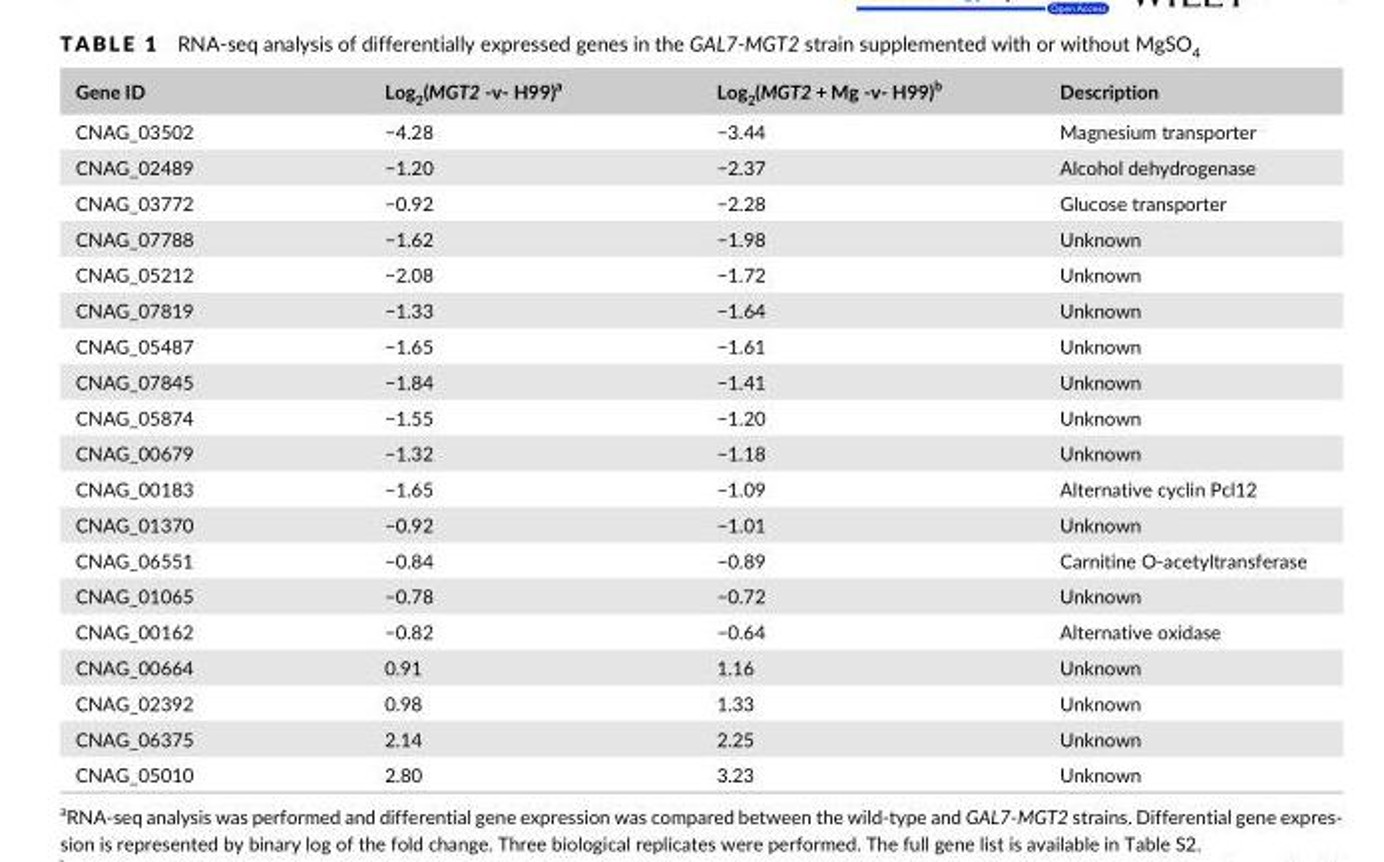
<table><thead><tr><td>Gene ID</td><td>Log<sub>2</sub>(MGT2 - v- H99)<sup>a</sup></td><td>Log<sub>2</sub>(MGT2 + Mg - v- H99)<sup>b</sup></td><td>Description</td></tr></thead><tbody><tr><td>CNAG_03502</td><td>−4.28</td><td>−3.44</td><td>Magnesium transporter</td></tr><tr><td>CNAG_02489</td><td>−1.20</td><td>−2.37</td><td>Alcohol dehydrogenase</td></tr><tr><td>CNAG_03772</td><td>−0.92</td><td>−2.28</td><td>Glucose transporter</td></tr><tr><td>CNAG_07788</td><td>−1.62</td><td>−1.98</td><td>Unknown</td></tr><tr><td>CNAG_05212</td><td>−2.08</td><td>−1.72</td><td>Unknown</td></tr><tr><td>CNAG_07819</td><td>−1.33</td><td>−1.64</td><td>Unknown</td></tr><tr><td>CNAG_05487</td><td>−1.65</td><td>−1.61</td><td>Unknown</td></tr><tr><td>CNAG_07845</td><td>−1.84</td><td>−1.41</td><td>Unknown</td></tr><tr><td>CNAG_05874</td><td>−1.55</td><td>−1.20</td><td>Unknown</td></tr><tr><td>CNAG_00679</td><td>−1.32</td><td>−1.18</td><td>Unknown</td></tr><tr><td>CNAG_00183</td><td>−1.65</td><td>−1.09</td><td>Alternative cyclin Pcl12</td></tr><tr><td>CNAG_01370</td><td>−0.92</td><td>−1.01</td><td>Unknown</td></tr><tr><td>CNAG_06551</td><td>−0.84</td><td>−0.89</td><td>Carnitine O- acetyltransferase</td></tr><tr><td>CNAG_01065</td><td>−0.78</td><td>−0.72</td><td>Unknown</td></tr><tr><td>CNAG_00162</td><td>−0.82</td><td>−0.64</td><td>Alternative oxidase</td></tr><tr><td>CNAG_00664</td><td>0.91</td><td>1.16</td><td>Unknown</td></tr><tr><td>CNAG_02392</td><td>0.98</td><td>1.33</td><td>Unknown</td></tr><tr><td>CNAG_06375</td><td>2.14</td><td>2.25</td><td>Unknown</td></tr><tr><td>CNAG_05010</td><td>2.80</td><td>3.23</td><td>Unknown</td></tr></tbody></table>